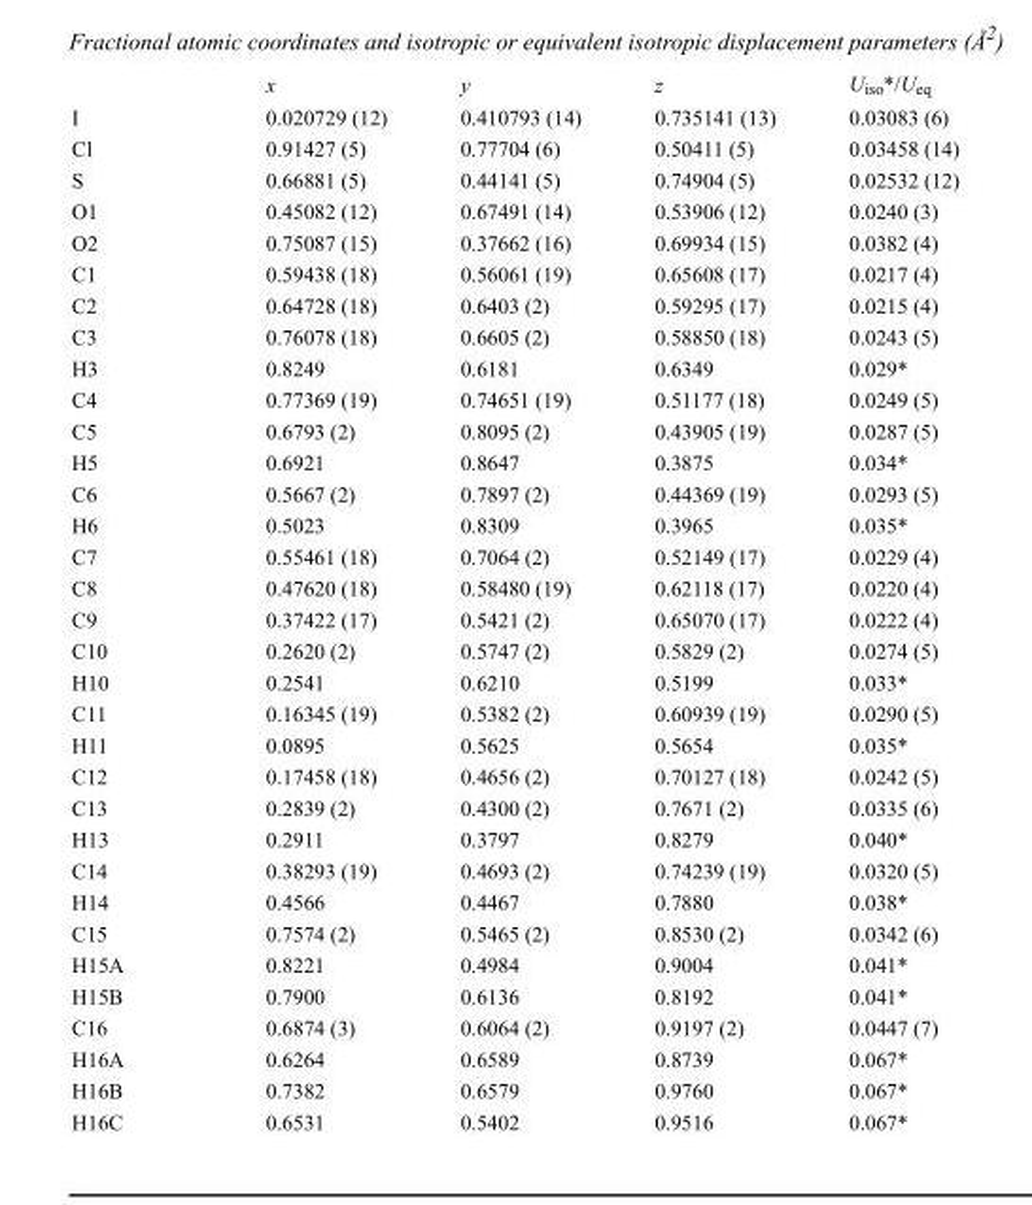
<table><thead><tr><td></td><td>x</td><td>y</td><td>z</td><td>U<sub>iso</sub>*/U<sub>eq</sub></td></tr></thead><tbody><tr><td>I</td><td>0.020729 (12)</td><td>0.410793 (14)</td><td>0.735141 (13)</td><td>0.03083 (6)</td></tr><tr><td>Cl</td><td>0.91427 (5)</td><td>0.77704 (6)</td><td>0.50411 (5)</td><td>0.03458 (14)</td></tr><tr><td>S</td><td>0.66881 (5)</td><td>0.44141 (5)</td><td>0.74904 (5)</td><td>0.02532 (12)</td></tr><tr><td>O1</td><td>0.45082 (12)</td><td>0.67491 (14)</td><td>0.53906 (12)</td><td>0.0240 (3)</td></tr><tr><td>O2</td><td>0.75087 (15)</td><td>0.37662 (16)</td><td>0.69934 (15)</td><td>0.0382 (4)</td></tr><tr><td>C1</td><td>0.59438 (18)</td><td>0.56061 (19)</td><td>0.65608 (17)</td><td>0.0217 (4)</td></tr><tr><td>C2</td><td>0.64728 (18)</td><td>0.6403 (2)</td><td>0.59295 (17)</td><td>0.0215 (4)</td></tr><tr><td>C3</td><td>0.76078 (18)</td><td>0.6605 (2)</td><td>0.58850 (18)</td><td>0.0243 (5)</td></tr><tr><td>H3</td><td>0.8249</td><td>0.6181</td><td>0.6349</td><td>0.029*</td></tr><tr><td>C4</td><td>0.77369 (19)</td><td>0.74651 (19)</td><td>0.51177 (18)</td><td>0.0249 (5)</td></tr><tr><td>C5</td><td>0.6793 (2)</td><td>0.8095 (2)</td><td>0.43905 (19)</td><td>0.0287 (5)</td></tr><tr><td>H5</td><td>0.6921</td><td>0.8647</td><td>0.3875</td><td>0.034*</td></tr><tr><td>C6</td><td>0.5667 (2)</td><td>0.7897 (2)</td><td>0.44369 (19)</td><td>0.0293 (5)</td></tr><tr><td>H6</td><td>0.5023</td><td>0.8309</td><td>0.3965</td><td>0.035*</td></tr><tr><td>C7</td><td>0.55461 (18)</td><td>0.7064 (2)</td><td>0.52149 (17)</td><td>0.0229 (4)</td></tr><tr><td>C8</td><td>0.47620 (18)</td><td>0.58480 (19)</td><td>0.62118 (17)</td><td>0.0220 (4)</td></tr><tr><td>C9</td><td>0.37422 (17)</td><td>0.5421 (2)</td><td>0.65070 (17)</td><td>0.0222 (4)</td></tr><tr><td>C10</td><td>0.2620 (2)</td><td>0.5747 (2)</td><td>0.5829 (2)</td><td>0.0274 (5)</td></tr><tr><td>H10</td><td>0.2541</td><td>0.6210</td><td>0.5199</td><td>0.033*</td></tr><tr><td>C11</td><td>0.16345 (19)</td><td>0.5382 (2)</td><td>0.60939 (19)</td><td>0.0290 (5)</td></tr><tr><td>H11</td><td>0.0895</td><td>0.5625</td><td>0.5654</td><td>0.035*</td></tr><tr><td>C12</td><td>0.17458 (18)</td><td>0.4656 (2)</td><td>0.70127 (18)</td><td>0.0242 (5)</td></tr><tr><td>C13</td><td>0.2839 (2)</td><td>0.4300 (2)</td><td>0.7671 (2)</td><td>0.0335 (6)</td></tr><tr><td>H13</td><td>0.2911</td><td>0.3797</td><td>0.8279</td><td>0.040*</td></tr><tr><td>C14</td><td>0.38293 (19)</td><td>0.4693 (2)</td><td>0.74239 (19)</td><td>0.0320 (5)</td></tr><tr><td>H14</td><td>0.4566</td><td>0.4467</td><td>0.7880</td><td>0.038*</td></tr><tr><td>C15</td><td>0.7574 (2)</td><td>0.5465 (2)</td><td>0.8530 (2)</td><td>0.0342 (6)</td></tr><tr><td>H15A</td><td>0.8221</td><td>0.4984</td><td>0.9004</td><td>0.041*</td></tr><tr><td>H15B</td><td>0.7900</td><td>0.6136</td><td>0.8192</td><td>0.041*</td></tr><tr><td>C16</td><td>0.6874 (3)</td><td>0.6064 (2)</td><td>0.9197 (2)</td><td>0.0447 (7)</td></tr><tr><td>H16A</td><td>0.6264</td><td>0.6589</td><td>0.8739</td><td>0.067*</td></tr><tr><td>H16B</td><td>0.7382</td><td>0.6579</td><td>0.9760</td><td>0.067*</td></tr><tr><td>H16C</td><td>0.6531</td><td>0.5402</td><td>0.9516</td><td>0.067*</td></tr></tbody></table>